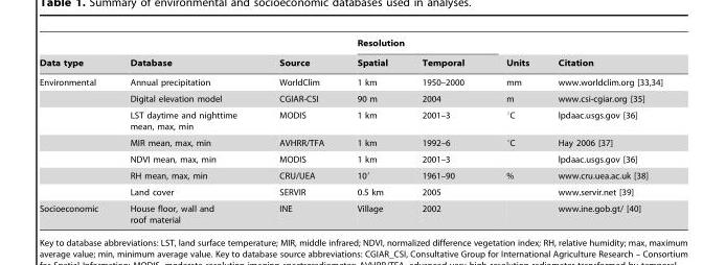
<table><thead><tr><td rowspan="2">Data type</td><td rowspan="2">Database</td><td rowspan="2">Source</td><td colspan="2">Resolution</td><td rowspan="2">Units</td><td rowspan="2">Citation</td></tr><tr><td>Spatial</td><td>Temporal</td></tr></thead><tbody><tr><td rowspan="7">Environmental</td><td>Annual precipitation</td><td>WorldClim</td><td>1 km</td><td>1950–2000</td><td>mm</td><td>www.worldclim.org [33,34]</td></tr><tr><td>Digital elevation model</td><td>CGIAR-CSI</td><td>90 m</td><td>2004</td><td>m</td><td>www.csi-cgiar.org [35]</td></tr><tr><td>LST daytime and nighttime mean, max, min</td><td>MODIS</td><td>1 km</td><td>2001–3</td><td>°C</td><td>lpdaac.usgs.gov [36]</td></tr><tr><td>MIR mean, max, min</td><td>AVHRR/TFA</td><td>1 km</td><td>1992–6</td><td>°C</td><td>Hay 2006 [37]</td></tr><tr><td>NDVI mean, max, min</td><td>MODIS</td><td>1 km</td><td>2001–3</td><td></td><td>lpdaac.usgs.gov [36]</td></tr><tr><td>RH mean, max, min</td><td>CRU/UEA</td><td>10′</td><td>1961–90</td><td>%</td><td>www.cru.uea.ac.uk [38]</td></tr><tr><td>Land cover</td><td>SERVIR</td><td>0.5 km</td><td>2005</td><td></td><td>www.servir.net [39]</td></tr><tr><td>Socioeconomic</td><td>House floor, wall and roof material</td><td>INE</td><td>Village</td><td>2002</td><td></td><td>www.ine.gob.gt/ [40]</td></tr></tbody></table>